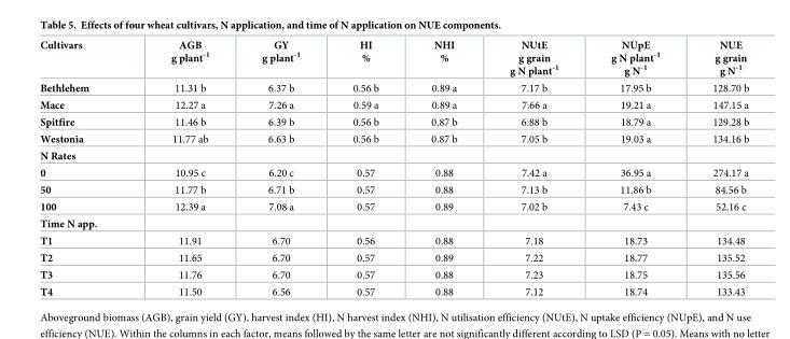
<table><thead><tr><td>Cultivars</td><td>AGB g plant<sup>-1</sup></td><td>GY g plant<sup>-1</sup></td><td>HI %</td><td>NHI %</td><td>NUtE g grain g N plant<sup>-1</sup></td><td>NUpE g N plant<sup>-1</sup> g N<sup>-1</sup></td><td>NUE g grain g N<sup>-1</sup></td></tr></thead><tbody><tr><td>Bethlehem</td><td>11.31 b</td><td>6.37 b</td><td>0.56 b</td><td>0.89 a</td><td>7.17 b</td><td>17.95 b</td><td>128.70 b</td></tr><tr><td>Mace</td><td>12.27 a</td><td>7.26 a</td><td>0.59 a</td><td>0.89 a</td><td>7.66 a</td><td>19.21 a</td><td>147.15 a</td></tr><tr><td>Spitfire</td><td>11.46 b</td><td>6.39 b</td><td>0.56 b</td><td>0.87 b</td><td>6.88 b</td><td>18.79 a</td><td>129.28 b</td></tr><tr><td>Westonia</td><td>11.77 ab</td><td>6.63 b</td><td>0.56 b</td><td>0.87 b</td><td>7.05 b</td><td>19.03 a</td><td>134.16 b</td></tr><tr><td colspan="8">N Rates</td></tr><tr><td>0</td><td>10.95 c</td><td>6.20 c</td><td>0.57</td><td>0.88</td><td>7.42 a</td><td>36.95 a</td><td>274.17 a</td></tr><tr><td>50</td><td>11.77 b</td><td>6.71 b</td><td>0.57</td><td>0.88</td><td>7.13 b</td><td>11.86 b</td><td>84.56 b</td></tr><tr><td>100</td><td>12.39 a</td><td>7.08 a</td><td>0.57</td><td>0.89</td><td>7.02 b</td><td>7.43 c</td><td>52.16 c</td></tr><tr><td colspan="8">Time N app.</td></tr><tr><td>T1</td><td>11.91</td><td>6.70</td><td>0.56</td><td>0.88</td><td>7.18</td><td>18.73</td><td>134.48</td></tr><tr><td>T2</td><td>11.65</td><td>6.70</td><td>0.57</td><td>0.89</td><td>7.22</td><td>18.77</td><td>135.52</td></tr><tr><td>T3</td><td>11.76</td><td>6.70</td><td>0.57</td><td>0.88</td><td>7.23</td><td>18.75</td><td>135.56</td></tr><tr><td>T4</td><td>11.50</td><td>6.56</td><td>0.57</td><td>0.88</td><td>7.12</td><td>18.74</td><td>133.43</td></tr></tbody></table>